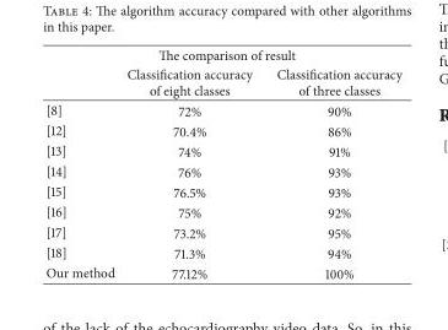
<table><thead><tr><td colspan="3">The comparison of result</td></tr><tr><td></td><td>Classification accuracy of eight classes</td><td>Classification accuracy of three classes</td></tr></thead><tbody><tr><td>[8]</td><td>72%</td><td>90%</td></tr><tr><td>[12]</td><td>70.4%</td><td>86%</td></tr><tr><td>[13]</td><td>74%</td><td>91%</td></tr><tr><td>[14]</td><td>76%</td><td>93%</td></tr><tr><td>[15]</td><td>76.5%</td><td>93%</td></tr><tr><td>[16]</td><td>75%</td><td>92%</td></tr><tr><td>[17]</td><td>73.2%</td><td>95%</td></tr><tr><td>[18]</td><td>71.3%</td><td>94%</td></tr><tr><td>Our method</td><td>77.12%</td><td>100%</td></tr></tbody></table>